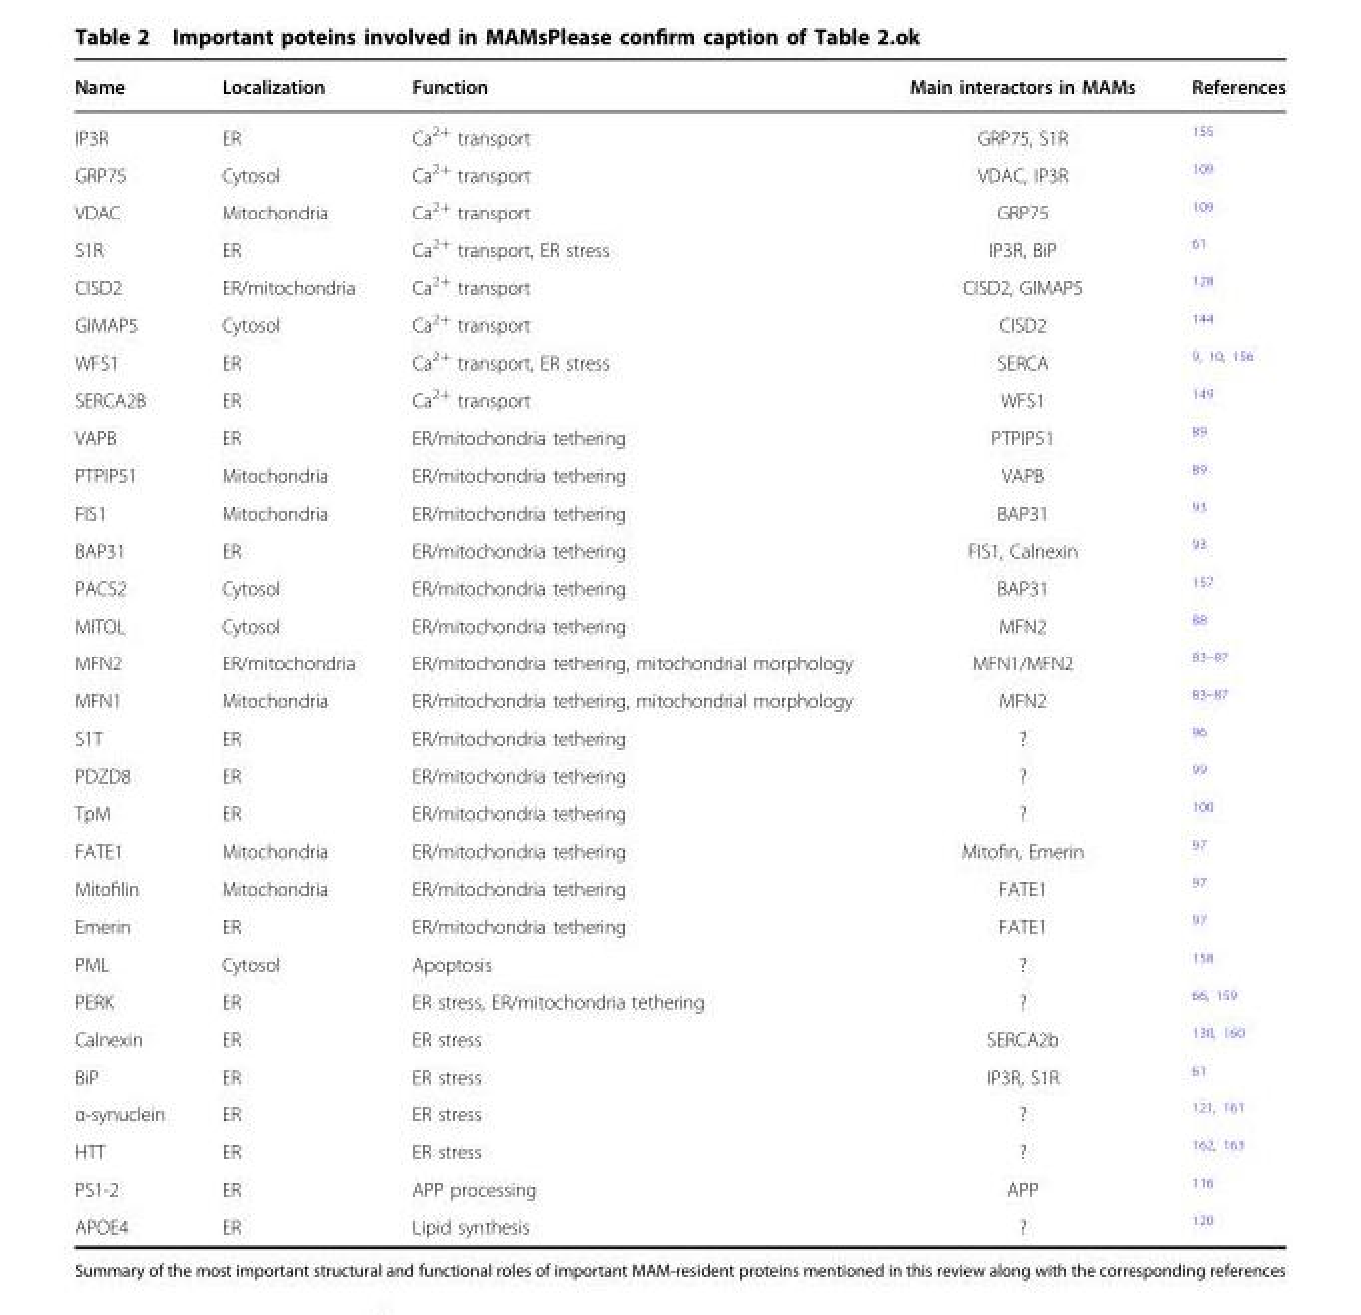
<table><thead><tr><td>Name</td><td>Localization</td><td>Function</td><td>Main interactors in MAMs</td><td>References</td></tr></thead><tbody><tr><td>IP3R</td><td>ER</td><td>Ca<sup>2+</sup> transport</td><td>GRP75, S1R</td><td><sup>155</sup></td></tr><tr><td>GRP75</td><td>Cytosol</td><td>Ca<sup>2+</sup> transport</td><td>VDAC, IP3R</td><td><sup>109</sup></td></tr><tr><td>VDAC</td><td>Mitochondria</td><td>Ca<sup>2+</sup> transport</td><td>GRP75</td><td><sup>109</sup></td></tr><tr><td>S1R</td><td>ER</td><td>Ca<sup>2+</sup> transport, ER stress</td><td>IP3R, BiP</td><td><sup>61</sup></td></tr><tr><td>CISD2</td><td>ER/mitochondria</td><td>Ca<sup>2+</sup> transport</td><td>CISD2, GIMAP5</td><td><sup>128</sup></td></tr><tr><td>GIMAP5</td><td>Cytosol</td><td>Ca<sup>2+</sup> transport</td><td>CISD2</td><td><sup>144</sup></td></tr><tr><td>WFS1</td><td>ER</td><td>Ca<sup>2+</sup> transport, ER stress</td><td>SERCA</td><td><sup>9, 10, 156</sup></td></tr><tr><td>SERCA2B</td><td>ER</td><td>Ca<sup>2+</sup> transport</td><td>WFS1</td><td><sup>149</sup></td></tr><tr><td>VAPB</td><td>ER</td><td>ER/mitochondria tethering</td><td>PTPIP51</td><td><sup>89</sup></td></tr><tr><td>PTPIP51</td><td>Mitochondria</td><td>ER/mitochondria tethering</td><td>VAPB</td><td><sup>89</sup></td></tr><tr><td>FIS1</td><td>Mitochondria</td><td>ER/mitochondria tethering</td><td>BAP31</td><td><sup>93</sup></td></tr><tr><td>BAP31</td><td>ER</td><td>ER/mitochondria tethering</td><td>FIS1, Calnexin</td><td><sup>93</sup></td></tr><tr><td>PACS2</td><td>Cytosol</td><td>ER/mitochondria tethering</td><td>BAP31</td><td><sup>157</sup></td></tr><tr><td>MITOL</td><td>Cytosol</td><td>ER/mitochondria tethering</td><td>MFN2</td><td><sup>88</sup></td></tr><tr><td>MFN2</td><td>ER/mitochondria</td><td>ER/mitochondria tethering, mitochondrial morphology</td><td>MFN1/MFN2</td><td><sup>83–87</sup></td></tr><tr><td>MFN1</td><td>Mitochondria</td><td>ER/mitochondria tethering, mitochondrial morphology</td><td>MFN2</td><td><sup>83–87</sup></td></tr><tr><td>S1T</td><td>ER</td><td>ER/mitochondria tethering</td><td>?</td><td><sup>96</sup></td></tr><tr><td>PDZD8</td><td>ER</td><td>ER/mitochondria tethering</td><td>?</td><td><sup>99</sup></td></tr><tr><td>TpM</td><td>ER</td><td>ER/mitochondria tethering</td><td>?</td><td><sup>100</sup></td></tr><tr><td>FATE1</td><td>Mitochondria</td><td>ER/mitochondria tethering</td><td>Mitofin, Emerin</td><td><sup>97</sup></td></tr><tr><td>Mitofilin</td><td>Mitochondria</td><td>ER/mitochondria tethering</td><td>FATE1</td><td><sup>97</sup></td></tr><tr><td>Emerin</td><td>ER</td><td>ER/mitochondria tethering</td><td>FATE1</td><td><sup>97</sup></td></tr><tr><td>PML</td><td>Cytosol</td><td>Apoptosis</td><td>?</td><td><sup>158</sup></td></tr><tr><td>PERK</td><td>ER</td><td>ER stress, ER/mitochondria tethering</td><td>?</td><td><sup>66, 159</sup></td></tr><tr><td>Calnexin</td><td>ER</td><td>ER stress</td><td>SERCA2b</td><td><sup>130, 160</sup></td></tr><tr><td>BiP</td><td>ER</td><td>ER stress</td><td>IP3R, S1R</td><td><sup>61</sup></td></tr><tr><td>α-synuclein</td><td>ER</td><td>ER stress</td><td>?</td><td><sup>121, 161</sup></td></tr><tr><td>HTT</td><td>ER</td><td>ER stress</td><td>?</td><td><sup>162, 163</sup></td></tr><tr><td>PS1-2</td><td>ER</td><td>APP processing</td><td>APP</td><td><sup>116</sup></td></tr><tr><td>APOE4</td><td>ER</td><td>Lipid synthesis</td><td>?</td><td><sup>120</sup></td></tr></tbody></table>